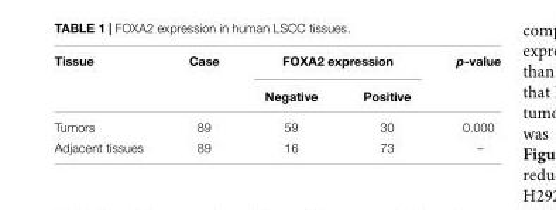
<table><thead><tr><td rowspan="2">Tissue</td><td rowspan="2">Case</td><td colspan="2">FOXA2 expression</td><td rowspan="2">p-value</td></tr><tr><td>Negative</td><td>Positive</td></tr></thead><tbody><tr><td>Tumors</td><td>89</td><td>59</td><td>30</td><td>0.000</td></tr><tr><td>Adjacent tissues</td><td>89</td><td>16</td><td>73</td><td>–</td></tr></tbody></table>